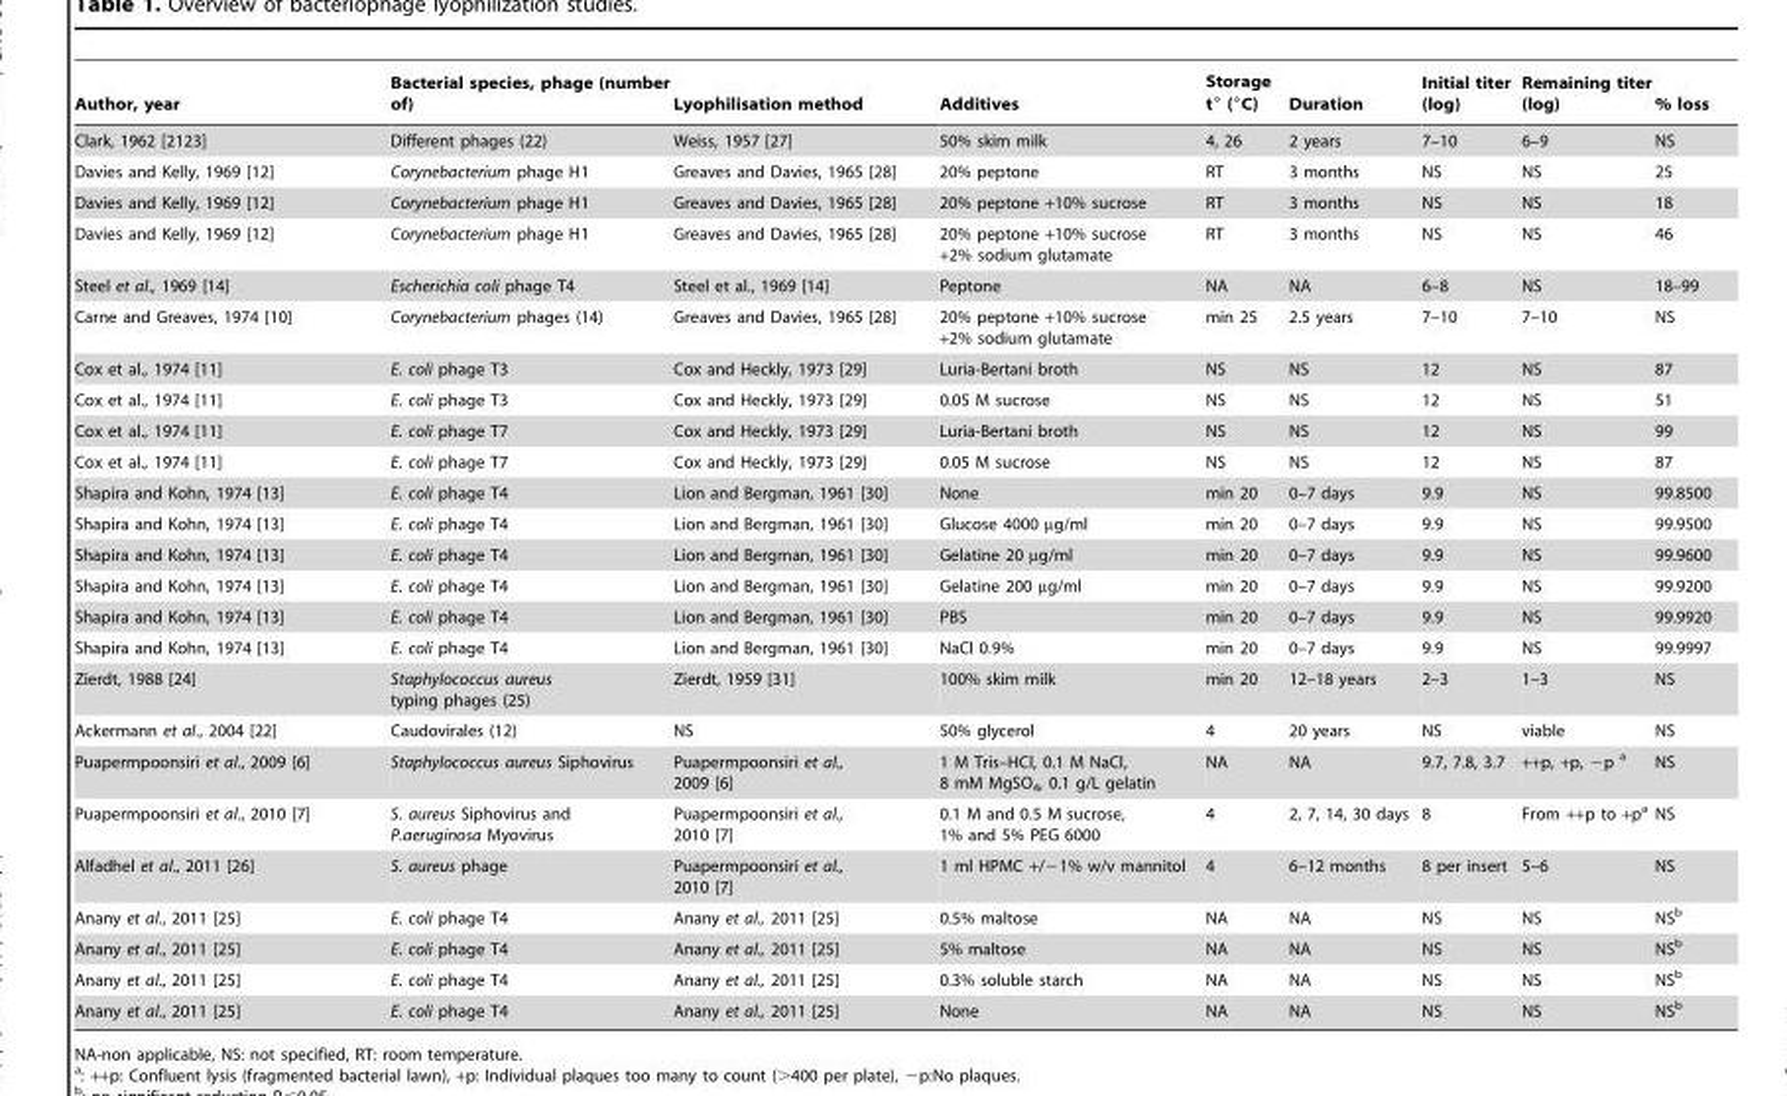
<table><thead><tr><td>Author, year</td><td>Bacterial species, phage (number of)</td><td>Lyophilisation method</td><td>Additives</td><td>Storage t° (°C)</td><td>Duration</td><td>Initial titer (log)</td><td>Remaining titer (log)</td><td>% loss</td></tr></thead><tbody><tr><td>Clark, 1962 [2123]</td><td>Different phages (22)</td><td>Weiss, 1957 [27]</td><td>50% skim milk</td><td>4, 26</td><td>2 years</td><td>7–10</td><td>6–9</td><td>NS</td></tr><tr><td>Davies and Kelly, 1969 [12]</td><td>Corynebacterium phage H1</td><td>Greaves and Davies, 1965 [28]</td><td>20% peptone</td><td>RT</td><td>3 months</td><td>NS</td><td>NS</td><td>25</td></tr><tr><td>Davies and Kelly, 1969 [12]</td><td>Corynebacterium phage H1</td><td>Greaves and Davies, 1965 [28]</td><td>20% peptone +10% sucrose</td><td>RT</td><td>3 months</td><td>NS</td><td>NS</td><td>18</td></tr><tr><td>Davies and Kelly, 1969 [12]</td><td>Corynebacterium phage H1</td><td>Greaves and Davies, 1965 [28]</td><td>20% peptone +10% sucrose +2% sodium glutamate</td><td>RT</td><td>3 months</td><td>NS</td><td>NS</td><td>46</td></tr><tr><td>Steel et al., 1969 [14]</td><td>Escherichia coli phage T4</td><td>Steel et al., 1969 [14]</td><td>Peptone</td><td>NA</td><td>NA</td><td>6–8</td><td>NS</td><td>18–99</td></tr><tr><td>Carne and Greaves, 1974 [10]</td><td>Corynebacterium phages (14)</td><td>Greaves and Davies, 1965 [28]</td><td>20% peptone +10% sucrose +2% sodium glutamate</td><td>min 25</td><td>2.5 years</td><td>7–10</td><td>7–10</td><td>NS</td></tr><tr><td>Cox et al., 1974 [11]</td><td>E. coli phage T3</td><td>Cox and Heckly, 1973 [29]</td><td>Luria-Bertani broth</td><td>NS</td><td>NS</td><td>12</td><td>NS</td><td>87</td></tr><tr><td>Cox et al., 1974 [11]</td><td>E. coli phage T3</td><td>Cox and Heckly, 1973 [29]</td><td>0.05 M sucrose</td><td>NS</td><td>NS</td><td>12</td><td>NS</td><td>51</td></tr><tr><td>Cox et al., 1974 [11]</td><td>E. coli phage T7</td><td>Cox and Heckly, 1973 [29]</td><td>Luria-Bertani broth</td><td>NS</td><td>NS</td><td>12</td><td>NS</td><td>99</td></tr><tr><td>Cox et al., 1974 [11]</td><td>E. coli phage T7</td><td>Cox and Heckly, 1973 [29]</td><td>0.05 M sucrose</td><td>NS</td><td>NS</td><td>12</td><td>NS</td><td>87</td></tr><tr><td>Shapira and Kohn, 1974 [13]</td><td>E. coli phage T4</td><td>Lion and Bergman, 1961 [30]</td><td>None</td><td>min 20</td><td>0–7 days</td><td>9.9</td><td>NS</td><td>99.8500</td></tr><tr><td>Shapira and Kohn, 1974 [13]</td><td>E. coli phage T4</td><td>Lion and Bergman, 1961 [30]</td><td>Glucose 4000 µg/ml</td><td>min 20</td><td>0–7 days</td><td>9.9</td><td>NS</td><td>99.9500</td></tr><tr><td>Shapira and Kohn, 1974 [13]</td><td>E. coli phage T4</td><td>Lion and Bergman, 1961 [30]</td><td>Gelatine 20 µg/ml</td><td>min 20</td><td>0–7 days</td><td>9.9</td><td>NS</td><td>99.9600</td></tr><tr><td>Shapira and Kohn, 1974 [13]</td><td>E. coli phage T4</td><td>Lion and Bergman, 1961 [30]</td><td>Gelatine 200 µg/ml</td><td>min 20</td><td>0–7 days</td><td>9.9</td><td>NS</td><td>99.9200</td></tr><tr><td>Shapira and Kohn, 1974 [13]</td><td>E. coli phage T4</td><td>Lion and Bergman, 1961 [30]</td><td>PBS</td><td>min 20</td><td>0–7 days</td><td>9.9</td><td>NS</td><td>99.9920</td></tr><tr><td>Shapira and Kohn, 1974 [13]</td><td>E. coli phage T4</td><td>Lion and Bergman, 1961 [30]</td><td>NaCl 0.9%</td><td>min 20</td><td>0–7 days</td><td>9.9</td><td>NS</td><td>99.9997</td></tr><tr><td>Zierdt, 1988 [24]</td><td>Staphylococcus aureus typing phages (25)</td><td>Zierdt, 1959 [31]</td><td>100% skim milk</td><td>min 20</td><td>12–18 years</td><td>2–3</td><td>1–3</td><td>NS</td></tr><tr><td>Ackermann et al., 2004 [22]</td><td>Caudovirales (12)</td><td>NS</td><td>50% glycerol</td><td>4</td><td>20 years</td><td>NS</td><td>viable</td><td>NS</td></tr><tr><td>Puapermpoonsiri et al., 2009 [6]</td><td>Staphylococcus aureus Siphovirus</td><td>Puapermpoonsiri et al., 2009 [6]</td><td>1 M Tris–HCl, 0.1 M NaCl, 8 mM MgSO<sub>4</sub>, 0.1 g/L gelatin</td><td>NA</td><td>NA</td><td>9.7, 7.8, 3.7</td><td>++p, +p, −p a</td><td>NS</td></tr><tr><td>Puapermpoonsiri et al., 2010 [7]</td><td>S. aureus Siphovirus and P.aeruginosa Myovirus</td><td>Puapermpoonsiri et al., 2010 [7]</td><td>0.1 M and 0.5 M sucrose, 1% and 5% PEG 6000</td><td>4</td><td>2, 7, 14, 30 days</td><td>8</td><td>From ++p to +p<sup>a</sup></td><td>NS</td></tr><tr><td>Alfadhel et al., 2011 [26]</td><td>S. aureus phage</td><td>Puapermpoonsiri et al., 2010 [7]</td><td>1 ml HPMC +/−1% w/v mannitol</td><td>4</td><td>6–12 months</td><td>8 per insert</td><td>5–6</td><td>NS</td></tr><tr><td>Anany et al., 2011 [25]</td><td>E. coli phage T4</td><td>Anany et al., 2011 [25]</td><td>0.5% maltose</td><td>NA</td><td>NA</td><td>NS</td><td>NS</td><td>NS<sup>b</sup></td></tr><tr><td>Anany et al., 2011 [25]</td><td>E. coli phage T4</td><td>Anany et al., 2011 [25]</td><td>5% maltose</td><td>NA</td><td>NA</td><td>NS</td><td>NS</td><td>NS<sup>b</sup></td></tr><tr><td>Anany et al., 2011 [25]</td><td>E. coli phage T4</td><td>Anany et al., 2011 [25]</td><td>0.3% soluble starch</td><td>NA</td><td>NA</td><td>NS</td><td>NS</td><td>NS<sup>b</sup></td></tr><tr><td>Anany et al., 2011 [25]</td><td>E. coli phage T4</td><td>Anany et al., 2011 [25]</td><td>None</td><td>NA</td><td>NA</td><td>NS</td><td>NS</td><td>NS<sup>b</sup></td></tr></tbody></table>